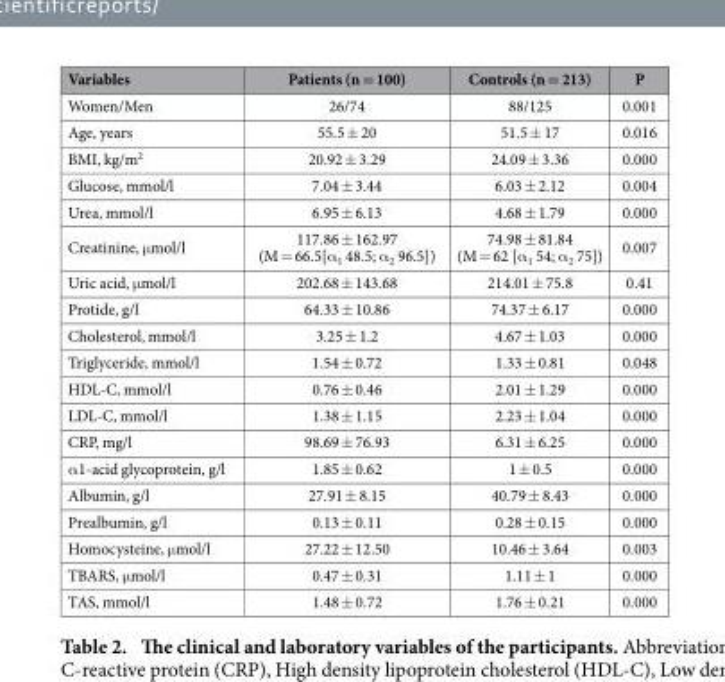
<table><thead><tr><td>Variables</td><td>Patients (n = 100)</td><td>Controls (n = 213)</td><td>P</td></tr></thead><tbody><tr><td>Women/Men</td><td>26/74</td><td>88/125</td><td>0.001</td></tr><tr><td>Age, years</td><td>55.5 ± 20</td><td>51.5 ± 17</td><td>0.016</td></tr><tr><td>BMI, kg/m<sup>2</sup></td><td>20.92 ± 3.29</td><td>24.09 ± 3.36</td><td>0.000</td></tr><tr><td>Glucose, mmol/l</td><td>7.04 ± 3.44</td><td>6.03 ± 2.12</td><td>0.004</td></tr><tr><td>Urea, mmol/l</td><td>6.95 ± 6.13</td><td>4.68 ± 1.79</td><td>0.000</td></tr><tr><td>Creatinine, μ mol/l</td><td>117.86 ± 162.97 (M = 66.5[α <sub>1</sub> 48.5; α <sub>2</sub> 96.5])</td><td>74.98 ± 81.84 (M = 62 [α <sub>1</sub> 54; α <sub>2</sub> 75])</td><td>0.007</td></tr><tr><td>Uric acid, μ mol/l</td><td>202.68 ± 143.68</td><td>214.01 ± 75.8</td><td>0.41</td></tr><tr><td>Protide, g/l</td><td>64.33 ± 10.86</td><td>74.37 ± 6.17</td><td>0.000</td></tr><tr><td>Cholesterol, mmol/l</td><td>3.25 ± 1.2</td><td>4.67 ± 1.03</td><td>0.000</td></tr><tr><td>Triglyceride, mmol/l</td><td>1.54 ± 0.72</td><td>1.33 ± 0.81</td><td>0.048</td></tr><tr><td>HDL-C, mmol/l</td><td>0.76 ± 0.46</td><td>2.01 ± 1.29</td><td>0.000</td></tr><tr><td>LDL-C, mmol/l</td><td>1.38 ± 1.15</td><td>2.23 ± 1.04</td><td>0.000</td></tr><tr><td>CRP, mg/l</td><td>98.69 ± 76.93</td><td>6.31 ± 6.25</td><td>0.000</td></tr><tr><td>α 1‐acid glycoprotein, g/l</td><td>1.85 ± 0.62</td><td>1 ± 0.5</td><td>0.000</td></tr><tr><td>Albumin, g/l</td><td>27.91 ± 8.15</td><td>40.79 ± 8.43</td><td>0.000</td></tr><tr><td>Prealbumin, g/l</td><td>0.13 ± 0.11</td><td>0.28 ± 0.15</td><td>0.000</td></tr><tr><td>Homocysteine, μ mol/l</td><td>27.22 ± 12.50</td><td>10.46 ± 3.64</td><td>0.003</td></tr><tr><td>TBARS, μ mol/l</td><td>0.47 ± 0.31</td><td>1.11 ± 1</td><td>0.000</td></tr><tr><td>TAS, mmol/l</td><td>1.48 ± 0.72</td><td>1.76 ± 0.21</td><td>0.000</td></tr></tbody></table>